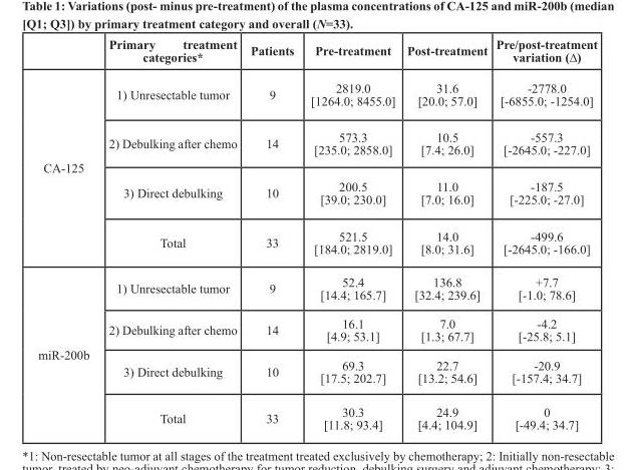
<table><thead><tr><td></td><td>Primary treatment categories*</td><td>Patients</td><td>Pre-treatment</td><td>Post-treatment</td><td>Pre/post-treatment variation (∆)</td></tr></thead><tbody><tr><td rowspan="4">CA-125</td><td>1) Unresectable tumor</td><td>9</td><td>2819.0 [1264.0; 8455.0]</td><td>31.6 [20.0; 57.0]</td><td>-2778.0 [-6855.0; -1254.0]</td></tr><tr><td>2) Debulking after chemo</td><td>14</td><td>573.3 [235.0; 2858.0]</td><td>10.5 [7.4; 26.0]</td><td>-557.3 [-2645.0; -227.0]</td></tr><tr><td>3) Direct debulking</td><td>10</td><td>200.5 [39.0; 230.0]</td><td>11.0 [7.0; 16.0]</td><td>-187.5 [-225.0; -27.0]</td></tr><tr><td>Total</td><td>33</td><td>521.5 [184.0; 2819.0]</td><td>14.0 [8.0; 31.6]</td><td>-499.6 [-2645.0; -166.0]</td></tr><tr><td rowspan="4">miR-200b</td><td>1) Unresectable tumor</td><td>9</td><td>52.4 [14.4; 165.7]</td><td>136.8 [32.4; 239.6]</td><td>+7.7 [-1.0; 78.6]</td></tr><tr><td>2) Debulking after chemo</td><td>14</td><td>16.1 [4.9; 53.1]</td><td>7.0 [1.3; 67.7]</td><td>-4.2 [-25.8; 5.1]</td></tr><tr><td>3) Direct debulking</td><td>10</td><td>69.3 [17.5; 202.7]</td><td>22.7 [13.2; 54.6]</td><td>-20.9 [-157.4; 34.7]</td></tr><tr><td>Total</td><td>33</td><td>30.3 [11.8; 93.4]</td><td>24.9 [4.4; 104.9]</td><td>0 [-49.4; 34.7]</td></tr></tbody></table>